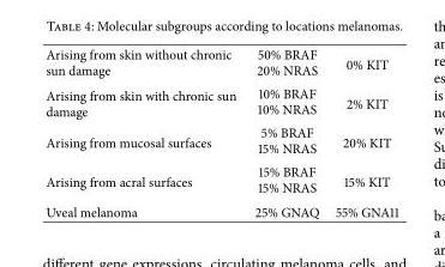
<table><tbody><tr><td>Arising from skin without chronic sun damage</td><td>50% BRAF 20% NRAS</td><td>0% KIT</td></tr><tr><td>Arising from skin with chronic sun damage</td><td>10% BRAF 10% NRAS</td><td>2% KIT</td></tr><tr><td>Arising from mucosal surfaces</td><td>5% BRAF 15% NRAS</td><td>20% KIT</td></tr><tr><td>Arising from acral surfaces</td><td>15% BRAF 15% NRAS</td><td>15% KIT</td></tr><tr><td>Uveal melanoma</td><td>25% GNAQ</td><td>55% GNA11</td></tr></tbody></table>